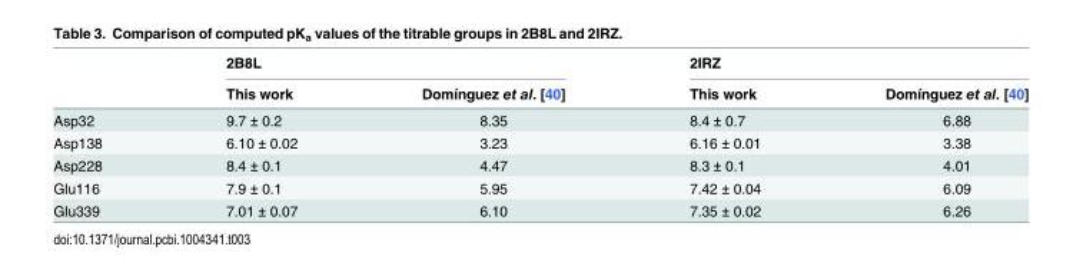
<table><thead><tr><td rowspan="2"></td><td colspan="2">2B8L</td><td colspan="2">2IRZ</td></tr><tr><td>This work</td><td>Domínguez et al. [40]</td><td>This work</td><td>Domínguez et al. [40]</td></tr></thead><tbody><tr><td>Asp32</td><td>9.7 ± 0.2</td><td>8.35</td><td>8.4 ± 0.7</td><td>6.88</td></tr><tr><td>Asp138</td><td>6.10 ± 0.02</td><td>3.23</td><td>6.16 ± 0.01</td><td>3.38</td></tr><tr><td>Asp228</td><td>8.4 ± 0.1</td><td>4.47</td><td>8.3 ± 0.1</td><td>4.01</td></tr><tr><td>Glu116</td><td>7.9 ± 0.1</td><td>5.95</td><td>7.42 ± 0.04</td><td>6.09</td></tr><tr><td>Glu339</td><td>7.01 ± 0.07</td><td>6.10</td><td>7.35 ± 0.02</td><td>6.26</td></tr></tbody></table>